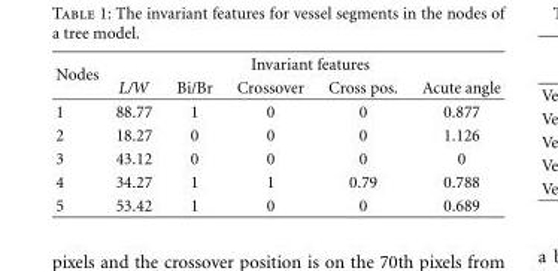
<table><thead><tr><td rowspan="2">Nodes</td><td colspan="5">Invariant features</td></tr><tr><td>L/W</td><td>Bi/Br</td><td>Crossover</td><td>Cross pos.</td><td>Acute angle</td></tr></thead><tbody><tr><td>1</td><td>88.77</td><td>1</td><td>0</td><td>0</td><td>0.877</td></tr><tr><td>2</td><td>18.27</td><td>0</td><td>0</td><td>0</td><td>1.126</td></tr><tr><td>3</td><td>43.12</td><td>0</td><td>0</td><td>0</td><td>0</td></tr><tr><td>4</td><td>34.27</td><td>1</td><td>1</td><td>0.79</td><td>0.788</td></tr><tr><td>5</td><td>53.42</td><td>1</td><td>0</td><td>0</td><td>0.689</td></tr></tbody></table>